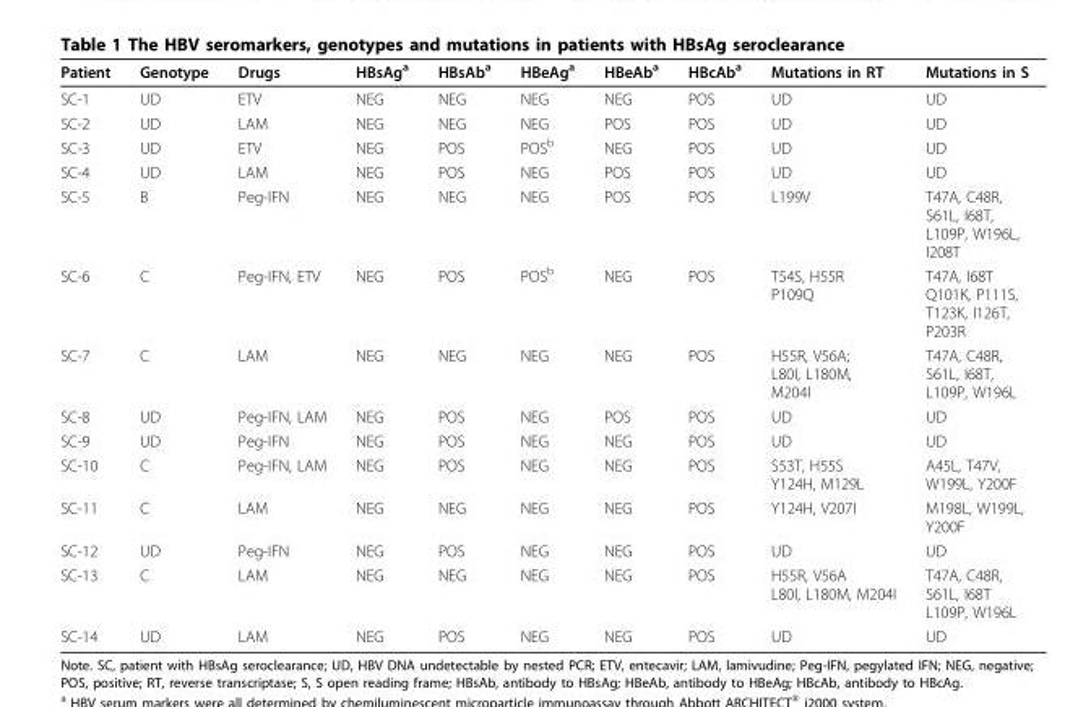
<table><thead><tr><td>Patient</td><td>Genotype</td><td>Drugs</td><td>HBsAg<sup>a</sup></td><td>HBsAb<sup>a</sup></td><td>HBeAg<sup>a</sup></td><td>HBeAb<sup>a</sup></td><td>HBcAb<sup>a</sup></td><td>Mutations in RT</td><td>Mutations in S</td></tr></thead><tbody><tr><td>SC-1</td><td>UD</td><td>ETV</td><td>NEG</td><td>NEG</td><td>NEG</td><td>NEG</td><td>POS</td><td>UD</td><td>UD</td></tr><tr><td>SC-2</td><td>UD</td><td>LAM</td><td>NEG</td><td>NEG</td><td>NEG</td><td>POS</td><td>POS</td><td>UD</td><td>UD</td></tr><tr><td>SC-3</td><td>UD</td><td>ETV</td><td>NEG</td><td>POS</td><td>POS<sup>b</sup></td><td>NEG</td><td>POS</td><td>UD</td><td>UD</td></tr><tr><td>SC-4</td><td>UD</td><td>LAM</td><td>NEG</td><td>POS</td><td>NEG</td><td>POS</td><td>POS</td><td>UD</td><td>UD</td></tr><tr><td>SC-5</td><td>B</td><td>Peg-IFN</td><td>NEG</td><td>NEG</td><td>NEG</td><td>POS</td><td>POS</td><td>L199V</td><td>T47A, C48R, S61L, I68T, L109P, W196L, I208T</td></tr><tr><td>SC-6</td><td>C</td><td>Peg-IFN, ETV</td><td>NEG</td><td>POS</td><td>POS<sup>b</sup></td><td>NEG</td><td>POS</td><td>T54S, H55R P109Q</td><td>T47A, I68T Q101K, P111S, T123K, I126T, P203R</td></tr><tr><td>SC-7</td><td>C</td><td>LAM</td><td>NEG</td><td>NEG</td><td>NEG</td><td>NEG</td><td>POS</td><td>H55R, V56A; L80I, L180M, M204I</td><td>T47A, C48R, S61L, I68T, L109P, W196L</td></tr><tr><td>SC-8</td><td>UD</td><td>Peg-IFN, LAM</td><td>NEG</td><td>POS</td><td>NEG</td><td>POS</td><td>POS</td><td>UD</td><td>UD</td></tr><tr><td>SC-9</td><td>UD</td><td>Peg-IFN</td><td>NEG</td><td>POS</td><td>NEG</td><td>NEG</td><td>POS</td><td>UD</td><td>UD</td></tr><tr><td>SC-10</td><td>C</td><td>Peg-IFN, LAM</td><td>NEG</td><td>POS</td><td>NEG</td><td>NEG</td><td>POS</td><td>S53T, H55S Y124H, M129L</td><td>A45L, T47V, W199L, Y200F</td></tr><tr><td>SC-11</td><td>C</td><td>LAM</td><td>NEG</td><td>NEG</td><td>NEG</td><td>NEG</td><td>POS</td><td>Y124H, V207I</td><td>M198L, W199L, Y200F</td></tr><tr><td>SC-12</td><td>UD</td><td>Peg-IFN</td><td>NEG</td><td>POS</td><td>NEG</td><td>NEG</td><td>POS</td><td>UD</td><td>UD</td></tr><tr><td>SC-13</td><td>C</td><td>LAM</td><td>NEG</td><td>NEG</td><td>NEG</td><td>NEG</td><td>POS</td><td>H55R, V56A L80I, L180M, M204I</td><td>T47A, C48R, S61L, I68T L109P, W196L</td></tr><tr><td>SC-14</td><td>UD</td><td>LAM</td><td>NEG</td><td>POS</td><td>NEG</td><td>NEG</td><td>POS</td><td>UD</td><td>UD</td></tr></tbody></table>